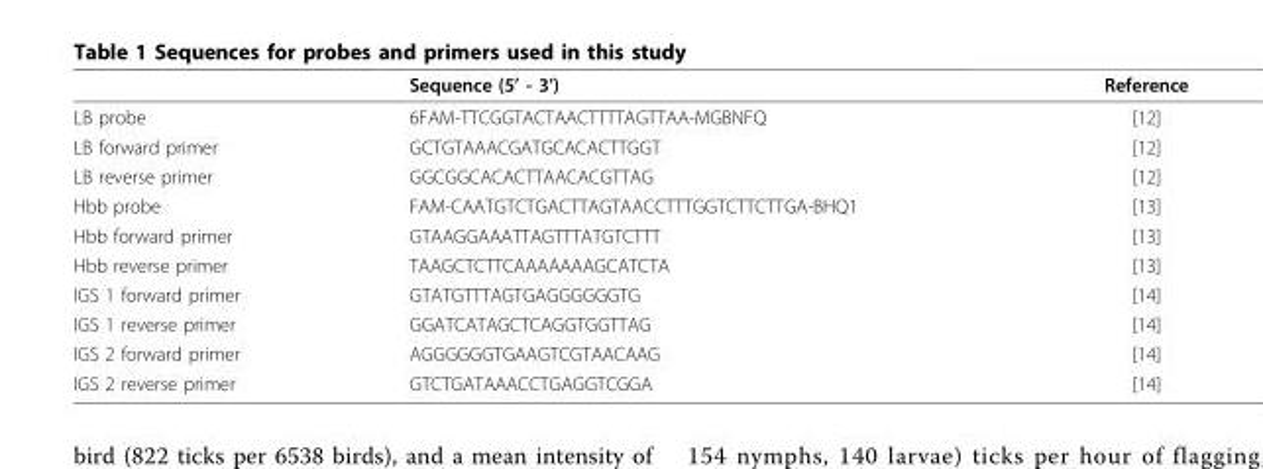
<table><thead><tr><td></td><td>Sequence (5’ - 3’)</td><td>Reference</td></tr></thead><tbody><tr><td>LB probe</td><td>6FAM-TTCGGTACTAACTTTTAGTTAA-MGBNFQ</td><td>[12]</td></tr><tr><td>LB forward primer</td><td>GCTGTAAACGATGCACACTTGGT</td><td>[12]</td></tr><tr><td>LB reverse primer</td><td>GGCGGCACACTTAACACGTTAG</td><td>[12]</td></tr><tr><td>Hbb probe</td><td>FAM-CAATGTCTGACTTAGTAACCTTTGGTCTTCTTGA-BHQ1</td><td>[13]</td></tr><tr><td>Hbb forward primer</td><td>GTAAGGAAATTAGTTTATGTCTTT</td><td>[13]</td></tr><tr><td>Hbb reverse primer</td><td>TAAGCTCTTCAAAAAAAGCATCTA</td><td>[13]</td></tr><tr><td>IGS 1 forward primer</td><td>GTATGTTTAGTGAGGGGGGTG</td><td>[14]</td></tr><tr><td>IGS 1 reverse primer</td><td>GGATCATAGCTCAGGTGGTTAG</td><td>[14]</td></tr><tr><td>IGS 2 forward primer</td><td>AGGGGGGTGAAGTCGTAACAAG</td><td>[14]</td></tr><tr><td>IGS 2 reverse primer</td><td>GTCTGATAAACCTGAGGTCGGA</td><td>[14]</td></tr></tbody></table>